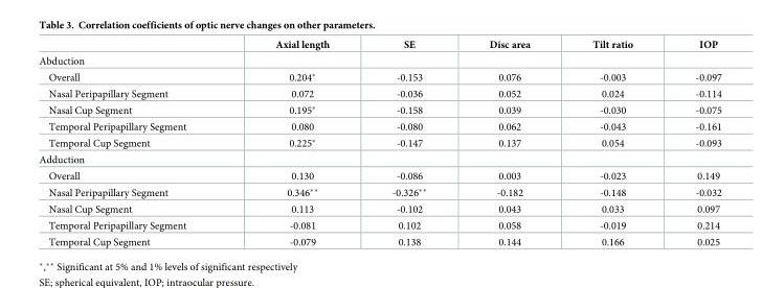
<table><thead><tr><td></td><td>Axial length</td><td>SE</td><td>Disc area</td><td>Tilt ratio</td><td>IOP</td></tr></thead><tbody><tr><td colspan="6">Abduction</td></tr><tr><td>Overall</td><td>0.204*</td><td>-0.153</td><td>0.076</td><td>-0.003</td><td>-0.097</td></tr><tr><td>Nasal Peripapillary Segment</td><td>0.072</td><td>-0.036</td><td>0.052</td><td>0.024</td><td>-0.114</td></tr><tr><td>Nasal Cup Segment</td><td>0.195*</td><td>-0.158</td><td>0.039</td><td>-0.030</td><td>-0.075</td></tr><tr><td>Temporal Peripapillary Segment</td><td>0.080</td><td>-0.080</td><td>0.062</td><td>-0.043</td><td>-0.161</td></tr><tr><td>Temporal Cup Segment</td><td>0.225*</td><td>-0.147</td><td>0.137</td><td>0.054</td><td>-0.093</td></tr><tr><td colspan="6">Adduction</td></tr><tr><td>Overall</td><td>0.130</td><td>-0.086</td><td>0.003</td><td>-0.023</td><td>0.149</td></tr><tr><td>Nasal Peripapillary Segment</td><td>0.346**</td><td>-0.326**</td><td>-0.182</td><td>-0.148</td><td>-0.032</td></tr><tr><td>Nasal Cup Segment</td><td>0.113</td><td>-0.102</td><td>0.043</td><td>0.033</td><td>0.097</td></tr><tr><td>Temporal Peripapillary Segment</td><td>-0.081</td><td>0.102</td><td>0.058</td><td>-0.019</td><td>0.214</td></tr><tr><td>Temporal Cup Segment</td><td>-0.079</td><td>0.138</td><td>0.144</td><td>0.166</td><td>0.025</td></tr></tbody></table>